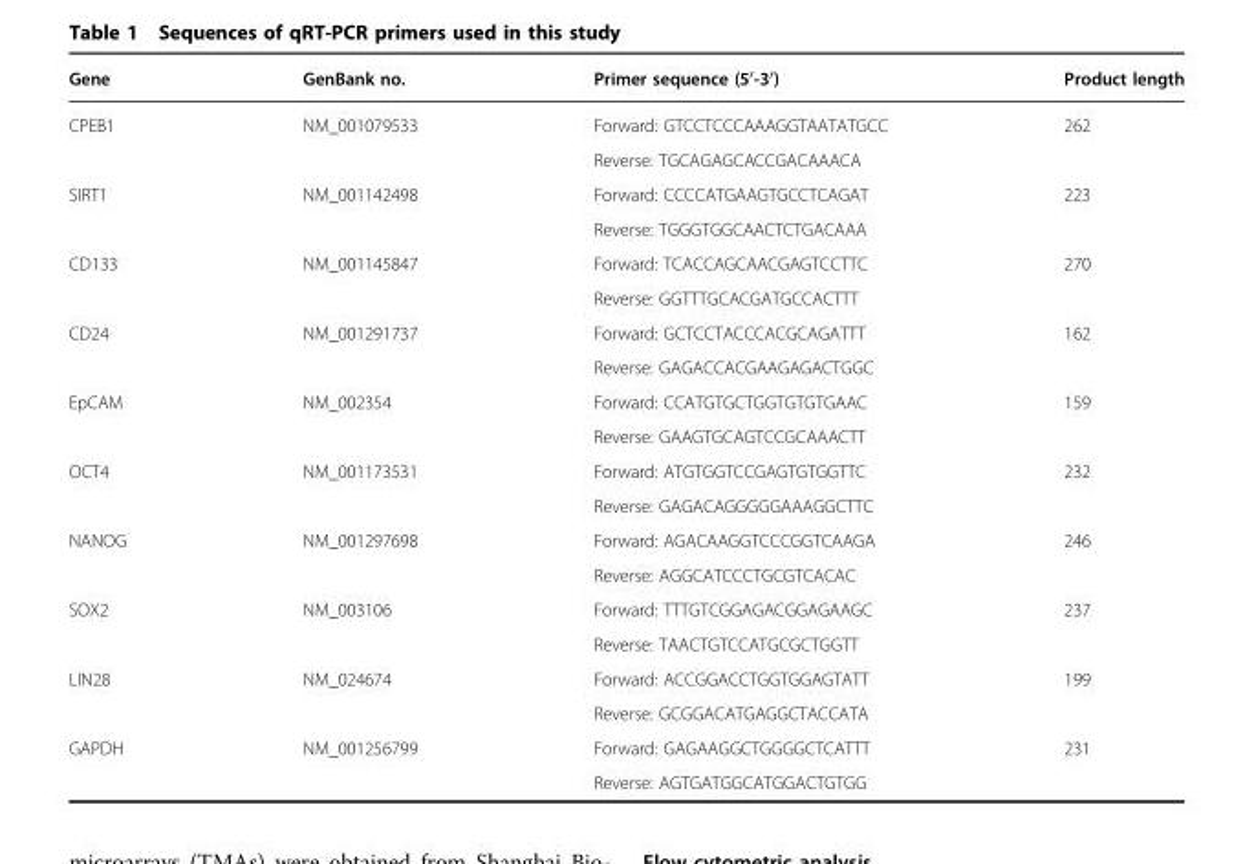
<table><thead><tr><td>Gene</td><td>GenBank no.</td><td>Primer sequence (5′-3′)</td><td>Product length</td></tr></thead><tbody><tr><td rowspan="2">CPEB1</td><td rowspan="2">NM_001079533</td><td>Forward: GTCCTCCCAAAGGTAATATGCC</td><td rowspan="2">262</td></tr><tr><td>Reverse: TGCAGAGCACCGACAAACA</td></tr><tr><td rowspan="2">SIRT1</td><td rowspan="2">NM_001142498</td><td>Forward: CCCCATGAAGTGCCTCAGAT</td><td rowspan="2">223</td></tr><tr><td>Reverse: TGGGTGGCAACTCTGACAAA</td></tr><tr><td rowspan="2">CD133</td><td rowspan="2">NM_001145847</td><td>Forward: TCACCAGCAACGAGTCCTTC</td><td rowspan="2">270</td></tr><tr><td>Reverse: GGTTTGCACGATGCCACTTT</td></tr><tr><td rowspan="2">CD24</td><td rowspan="2">NM_001291737</td><td>Forward: GCTCCTACCCACGCAGATTT</td><td rowspan="2">162</td></tr><tr><td>Reverse: GAGACCACGAAGAGACTGGC</td></tr><tr><td rowspan="2">EpCAM</td><td rowspan="2">NM_002354</td><td>Forward: CCATGTGCTGGTGTGTGAAC</td><td rowspan="2">159</td></tr><tr><td>Reverse: GAAGTGCAGTCCGCAAACTT</td></tr><tr><td rowspan="2">OCT4</td><td rowspan="2">NM_001173531</td><td>Forward: ATGTGGTCCGAGTGTGGTTC</td><td rowspan="2">232</td></tr><tr><td>Reverse: GAGACAGGGGGAAAGGCTTC</td></tr><tr><td rowspan="2">NANOG</td><td rowspan="2">NM_001297698</td><td>Forward: AGACAAGGTCCCGGTCAAGA</td><td rowspan="2">246</td></tr><tr><td>Reverse: AGGCATCCCTGCGTCACAC</td></tr><tr><td rowspan="2">SOX2</td><td rowspan="2">NM_003106</td><td>Forward: TTTGTCGGAGACGGAGAAGC</td><td rowspan="2">237</td></tr><tr><td>Reverse: TAACTGTCCATGCGCTGGTT</td></tr><tr><td rowspan="2">LIN28</td><td rowspan="2">NM_024674</td><td>Forward: ACCGGACCTGGTGGAGTATT</td><td rowspan="2">199</td></tr><tr><td>Reverse: GCGGACATGAGGCTACCATA</td></tr><tr><td rowspan="2">GAPDH</td><td rowspan="2">NM_001256799</td><td>Forward: GAGAAGGCTGGGGCTCATTT</td><td rowspan="2">231</td></tr><tr><td>Reverse: AGTGATGGCATGGACTGTGG</td></tr></tbody></table>